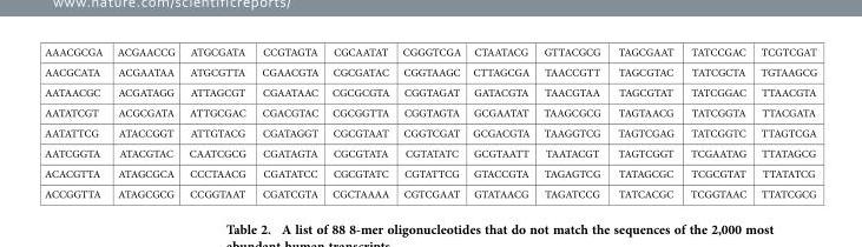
<table><tbody><tr><td>AAACGCGA</td><td>ACGAACCG</td><td>ATGCGATA</td><td>CCGTAGTA</td><td>CGCAATAT</td><td>CGGGTCGA</td><td>CTAATACG</td><td>GTTACGCG</td><td>TAGCGAAT</td><td>TATCCGAC</td><td>TCGTCGAT</td></tr><tr><td>AACGCATA</td><td>ACGAATAA</td><td>ATGCGTTA</td><td>CGAACGTA</td><td>CGCGATAC</td><td>CGGTAAGC</td><td>CTTAGCGA</td><td>TAACCGTT</td><td>TAGCGTAC</td><td>TATCGCTA</td><td>TGTAAGCG</td></tr><tr><td>AATAACGC</td><td>ACGATAGG</td><td>ATTAGCGT</td><td>CGAATAAC</td><td>CGCGCGTA</td><td>CGGTAGAT</td><td>GATACGTA</td><td>TAACGTAA</td><td>TAGCGTAT</td><td>TATCGGAC</td><td>TTAACGTA</td></tr><tr><td>AATATCGT</td><td>ACGCGATA</td><td>ATTGCGAC</td><td>CGACGTAC</td><td>CGCGGTTA</td><td>CGGTAGTA</td><td>GCGAATAT</td><td>TAAGCGCG</td><td>TAGTAACG</td><td>TATCGGTA</td><td>TTACGATA</td></tr><tr><td>AATATTCG</td><td>ATACCGGT</td><td>ATTGTACG</td><td>CGATAGGT</td><td>CGCGTAAT</td><td>CGGTCGAT</td><td>GCGACGTA</td><td>TAAGGTCG</td><td>TAGTCGAG</td><td>TATCGGTC</td><td>TTAGTCGA</td></tr><tr><td>AATCGGTA</td><td>ATACGTAC</td><td>CAATCGCG</td><td>CGATAGTA</td><td>CGCGTATA</td><td>CGTATATC</td><td>GCGTAATT</td><td>TAATACGT</td><td>TAGTCGGT</td><td>TCGAATAG</td><td>TTATAGCG</td></tr><tr><td>ACACGTTA</td><td>ATAGCGCA</td><td>CCCTAACG</td><td>CGATATCC</td><td>CGCGTATC</td><td>CGTATTCG</td><td>GTACCGTA</td><td>TAGAGTCG</td><td>TATAGCGC</td><td>TCGCGTAT</td><td>TTATATCG</td></tr><tr><td>ACCGGTTA</td><td>ATAGCGCG</td><td>CCGGTAAT</td><td>CGATCGTA</td><td>CGCTAAAA</td><td>CGTCGAAT</td><td>GTATAACG</td><td>TAGATCCG</td><td>TATCACGC</td><td>TCGGTAAC</td><td>TTATCGCG</td></tr></tbody></table>